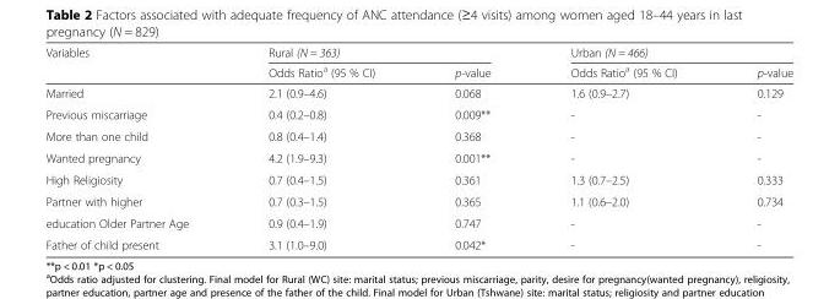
<table><thead><tr><td rowspan="2">Variables</td><td colspan="2">Rural (N = 363)</td><td colspan="2">Urban (N = 466)</td></tr><tr><td>Odds Ratio<sup>a</sup> (95 % CI)</td><td>p-value</td><td>Odds Ratio<sup>a</sup> (95 % CI)</td><td>p-value</td></tr></thead><tbody><tr><td>Married</td><td>2.1 (0.9–4.6)</td><td>0.068</td><td>1.6 (0.9–2.7)</td><td>0.129</td></tr><tr><td>Previous miscarriage</td><td>0.4 (0.2–0.8)</td><td>0.009**</td><td>-</td><td>-</td></tr><tr><td>More than one child</td><td>0.8 (0.4–1.4)</td><td>0.368</td><td>-</td><td>-</td></tr><tr><td>Wanted pregnancy</td><td>4.2 (1.9–9.3)</td><td>0.001**</td><td>-</td><td>-</td></tr><tr><td>High Religiosity</td><td>0.7 (0.4–1.5)</td><td>0.361</td><td>1.3 (0.7–2.5)</td><td>0.333</td></tr><tr><td>Partner with higher</td><td>0.7 (0.3–1.5)</td><td>0.365</td><td>1.1 (0.6–2.0)</td><td>0.734</td></tr><tr><td>education Older Partner Age</td><td>0.9 (0.4–1.9)</td><td>0.747</td><td>-</td><td>-</td></tr><tr><td>Father of child present</td><td>3.1 (1.0–9.0)</td><td>0.042*</td><td>-</td><td>-</td></tr></tbody></table>